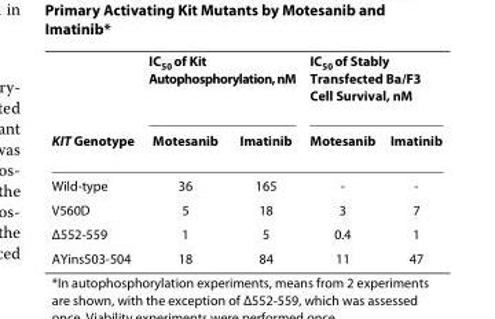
<table><thead><tr><td rowspan="2">KIT Genotype</td><td colspan="2">IC<sub>50</sub> of Kit Autophosphorylation, nM</td><td colspan="2">IC<sub>50</sub> of Stably Transfected Ba/F3 Cell Survival, nM</td></tr><tr><td>Motesanib</td><td>Imatinib</td><td>Motesanib</td><td>Imatinib</td></tr></thead><tbody><tr><td>Wild-type</td><td>36</td><td>165</td><td>-</td><td>-</td></tr><tr><td>V560D</td><td>5</td><td>18</td><td>3</td><td>7</td></tr><tr><td>Δ552-559</td><td>1</td><td>5</td><td>0.4</td><td>1</td></tr><tr><td>AYins503-504</td><td>18</td><td>84</td><td>11</td><td>47</td></tr></tbody></table>